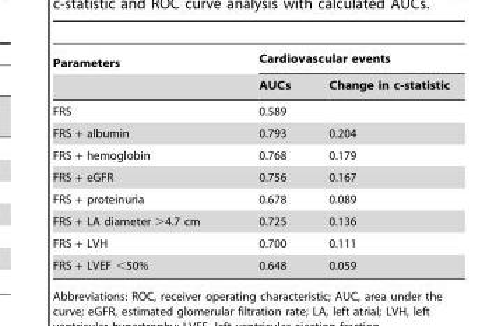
<table><thead><tr><td rowspan="2">Parameters</td><td colspan="2">Cardiovascular events</td></tr><tr><td>AUCs</td><td>Change in c-statistic</td></tr></thead><tbody><tr><td>FRS</td><td>0.589</td><td></td></tr><tr><td>FRS + albumin</td><td>0.793</td><td>0.204</td></tr><tr><td>FRS + hemoglobin</td><td>0.768</td><td>0.179</td></tr><tr><td>FRS + eGFR</td><td>0.756</td><td>0.167</td></tr><tr><td>FRS + proteinuria</td><td>0.678</td><td>0.089</td></tr><tr><td>FRS + LA diameter &gt;4.7 cm</td><td>0.725</td><td>0.136</td></tr><tr><td>FRS + LVH</td><td>0.700</td><td>0.111</td></tr><tr><td>FRS + LVEF &lt;50%</td><td>0.648</td><td>0.059</td></tr></tbody></table>